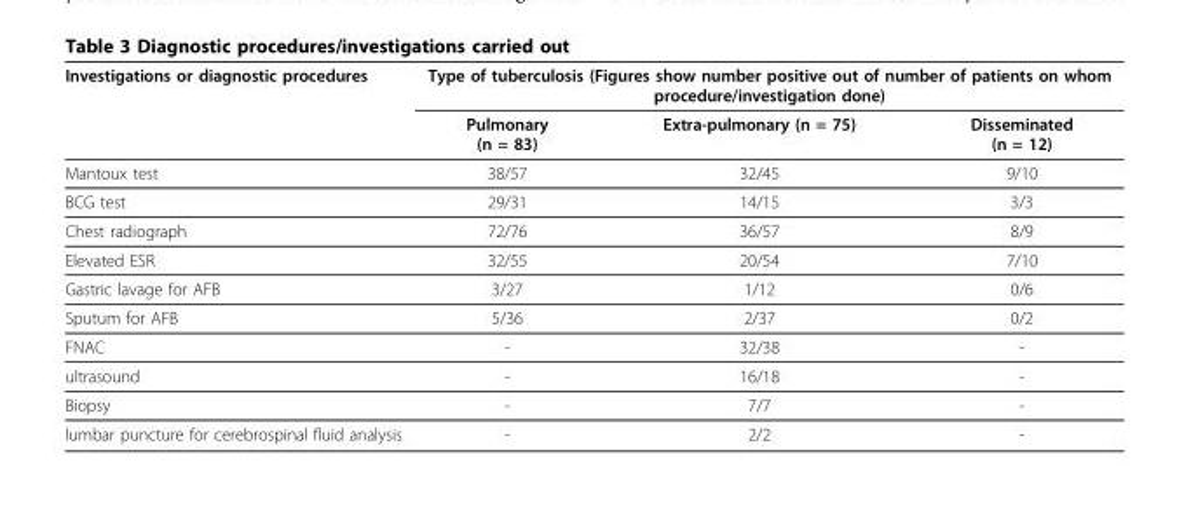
<table><thead><tr><td rowspan="2">Investigations or diagnostic procedures</td><td colspan="3">Type of tuberculosis (Figures show number positive out of number of patients on whom procedure/investigation done)</td></tr><tr><td>Pulmonary (n = 83)</td><td>Extra-pulmonary (n = 75)</td><td>Disseminated (n = 12)</td></tr></thead><tbody><tr><td>Mantoux test</td><td>38/57</td><td>32/45</td><td>9/10</td></tr><tr><td>BCG test</td><td>29/31</td><td>14/15</td><td>3/3</td></tr><tr><td>Chest radiograph</td><td>72/76</td><td>36/57</td><td>8/9</td></tr><tr><td>Elevated ESR</td><td>32/55</td><td>20/54</td><td>7/10</td></tr><tr><td>Gastric lavage for AFB</td><td>3/27</td><td>1/12</td><td>0/6</td></tr><tr><td>Sputum for AFB</td><td>5/36</td><td>2/37</td><td>0/2</td></tr><tr><td>FNAC</td><td>-</td><td>32/38</td><td>-</td></tr><tr><td>ultrasound</td><td>-</td><td>16/18</td><td>-</td></tr><tr><td>Biopsy</td><td>-</td><td>7/7</td><td>-</td></tr><tr><td>lumbar puncture for cerebrospinal fluid analysis</td><td>-</td><td>2/2</td><td>-</td></tr></tbody></table>